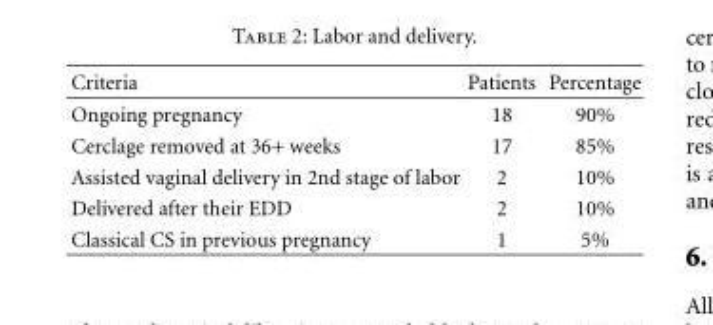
<table><thead><tr><td>Criteria</td><td>Patients</td><td>Percentage</td></tr></thead><tbody><tr><td>Ongoing pregnancy</td><td>18</td><td>90%</td></tr><tr><td>Cerclage removed at 36+ weeks</td><td>17</td><td>85%</td></tr><tr><td>Assisted vaginal delivery in 2nd stage of labor</td><td>2</td><td>10%</td></tr><tr><td>Delivered after their EDD</td><td>2</td><td>10%</td></tr><tr><td>Classical CS in previous pregnancy</td><td>1</td><td>5%</td></tr></tbody></table>